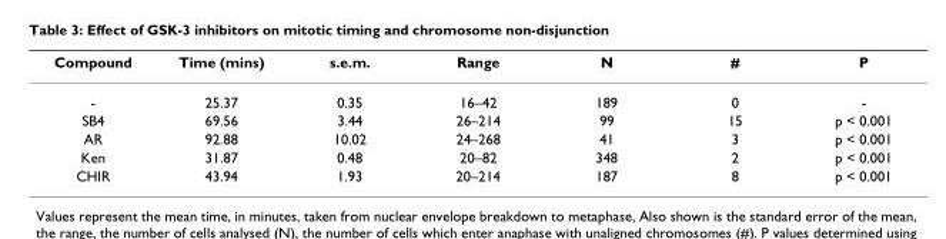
<table><thead><tr><td>Compound</td><td>Time (mins)</td><td>s.e.m.</td><td>Range</td><td>N</td><td>#</td><td>P</td></tr></thead><tbody><tr><td>-</td><td>25.37</td><td>0.35</td><td>16–42</td><td>189</td><td>0</td><td>-</td></tr><tr><td>SB4</td><td>69.56</td><td>3.44</td><td>26–214</td><td>99</td><td>15</td><td>p &lt; 0.001</td></tr><tr><td>AR</td><td>92.88</td><td>10.02</td><td>24–268</td><td>41</td><td>3</td><td>p &lt; 0.001</td></tr><tr><td>Ken</td><td>31.87</td><td>0.48</td><td>20–82</td><td>348</td><td>2</td><td>p &lt; 0.001</td></tr><tr><td>CHIR</td><td>43.94</td><td>1.93</td><td>20–214</td><td>187</td><td>8</td><td>p &lt; 0.001</td></tr></tbody></table>